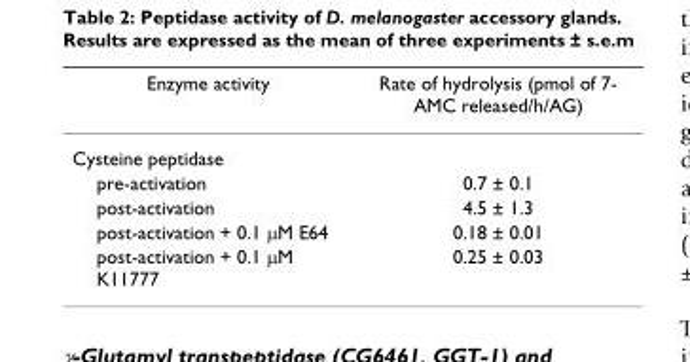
<table><thead><tr><td>Enzyme activity</td><td>Rate of hydrolysis (pmol of 7- AMC released/h/AG)</td></tr></thead><tbody><tr><td colspan="2">Cysteine peptidase</td></tr><tr><td>pre-activation</td><td>0.7 ± 0.1</td></tr><tr><td>post-activation</td><td>4.5 ± 1.3</td></tr><tr><td>post-activation + 0.1 µM E64</td><td>0.18 ± 0.01</td></tr><tr><td>post-activation + 0.1 µM K11777</td><td>0.25 ± 0.03</td></tr></tbody></table>